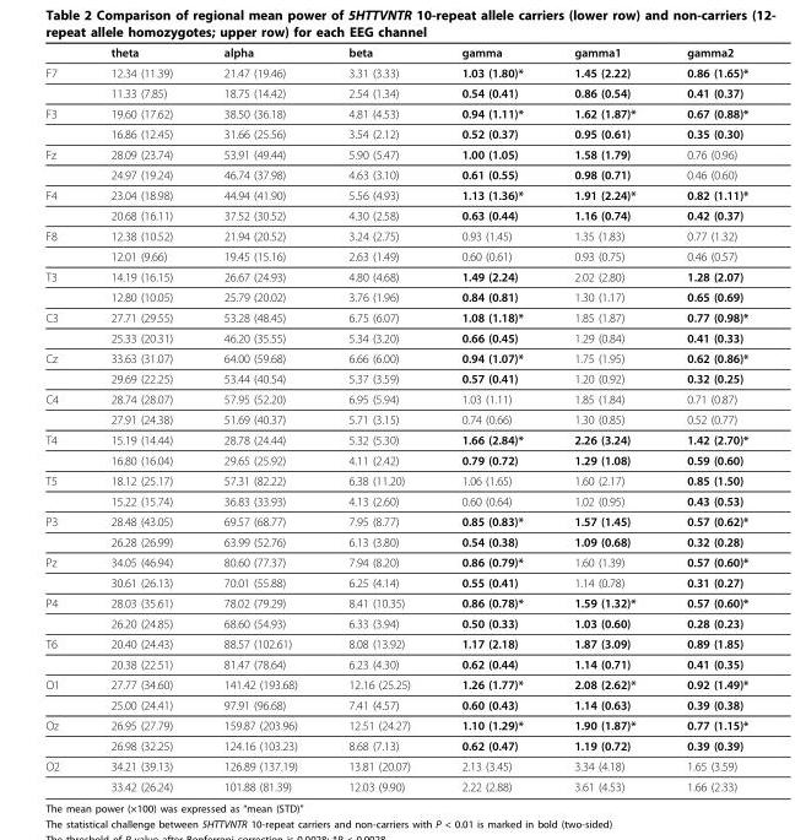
<table><thead><tr><td></td><td>theta</td><td>alpha</td><td>beta</td><td>gamma</td><td>gamma1</td><td>gamma2</td></tr></thead><tbody><tr><td rowspan="2">F7</td><td>12.34 (11.39)</td><td>21.47 (19.46)</td><td>3.31 (3.33)</td><td>1.03 (1.80)*</td><td>1.45 (2.22)</td><td>0.86 (1.65)*</td></tr><tr><td>11.33 (7.85)</td><td>18.75 (14.42)</td><td>2.54 (1.34)</td><td>0.54 (0.41)</td><td>0.86 (0.54)</td><td>0.41 (0.37)</td></tr><tr><td rowspan="2">F3</td><td>19.60 (17.62)</td><td>38.50 (36.18)</td><td>4.81 (4.53)</td><td>0.94 (1.11)*</td><td>1.62 (1.87)*</td><td>0.67 (0.88)*</td></tr><tr><td>16.86 (12.45)</td><td>31.66 (25.56)</td><td>3.54 (2.12)</td><td>0.52 (0.37)</td><td>0.95 (0.61)</td><td>0.35 (0.30)</td></tr><tr><td rowspan="2">Fz</td><td>28.09 (23.74)</td><td>53.91 (49.44)</td><td>5.90 (5.47)</td><td>1.00 (1.05)</td><td>1.58 (1.79)</td><td>0.76 (0.96)</td></tr><tr><td>24.97 (19.24)</td><td>46.74 (37.98)</td><td>4.63 (3.10)</td><td>0.61 (0.55)</td><td>0.98 (0.71)</td><td>0.46 (0.60)</td></tr><tr><td rowspan="2">F4</td><td>23.04 (18.98)</td><td>44.94 (41.90)</td><td>5.56 (4.93)</td><td>1.13 (1.36)*</td><td>1.91 (2.24)*</td><td>0.82 (1.11)*</td></tr><tr><td>20.68 (16.11)</td><td>37.52 (30.52)</td><td>4.30 (2.58)</td><td>0.63 (0.44)</td><td>1.16 (0.74)</td><td>0.42 (0.37)</td></tr><tr><td rowspan="2">F8</td><td>12.38 (10.52)</td><td>21.94 (20.52)</td><td>3.24 (2.75)</td><td>0.93 (1.45)</td><td>1.35 (1.83)</td><td>0.77 (1.32)</td></tr><tr><td>12.01 (9.66)</td><td>19.45 (15.16)</td><td>2.63 (1.49)</td><td>0.60 (0.61)</td><td>0.93 (0.75)</td><td>0.46 (0.57)</td></tr><tr><td rowspan="2">T3</td><td>14.19 (16.15)</td><td>26.67 (24.93)</td><td>4.80 (4.68)</td><td>1.49 (2.24)</td><td>2.02 (2.80)</td><td>1.28 (2.07)</td></tr><tr><td>12.80 (10.05)</td><td>25.79 (20.02)</td><td>3.76 (1.96)</td><td>0.84 (0.81)</td><td>1.30 (1.17)</td><td>0.65 (0.69)</td></tr><tr><td rowspan="2">C3</td><td>27.71 (29.55)</td><td>53.28 (48.45)</td><td>6.75 (6.07)</td><td>1.08 (1.18)*</td><td>1.85 (1.87)</td><td>0.77 (0.98)*</td></tr><tr><td>25.33 (20.31)</td><td>46.20 (35.55)</td><td>5.34 (3.20)</td><td>0.66 (0.45)</td><td>1.29 (0.84)</td><td>0.41 (0.33)</td></tr><tr><td rowspan="2">Cz</td><td>33.63 (31.07)</td><td>64.00 (59.68)</td><td>6.66 (6.00)</td><td>0.94 (1.07)*</td><td>1.75 (1.95)</td><td>0.62 (0.86)*</td></tr><tr><td>29.69 (22.25)</td><td>53.44 (40.54)</td><td>5.37 (3.59)</td><td>0.57 (0.41)</td><td>1.20 (0.92)</td><td>0.32 (0.25)</td></tr><tr><td rowspan="2">C4</td><td>28.74 (28.07)</td><td>57.95 (52.20)</td><td>6.95 (5.94)</td><td>1.03 (1.11)</td><td>1.85 (1.84)</td><td>0.71 (0.87)</td></tr><tr><td>27.91 (24.38)</td><td>51.69 (40.37)</td><td>5.71 (3.15)</td><td>0.74 (0.66)</td><td>1.30 (0.85)</td><td>0.52 (0.77)</td></tr><tr><td rowspan="2">T4</td><td>15.19 (14.44)</td><td>28.78 (24.44)</td><td>5.32 (5.30)</td><td>1.66 (2.84)*</td><td>2.26 (3.24)</td><td>1.42 (2.70)*</td></tr><tr><td>16.80 (16.04)</td><td>29.65 (25.92)</td><td>4.11 (2.42)</td><td>0.79 (0.72)</td><td>1.29 (1.08)</td><td>0.59 (0.60)</td></tr><tr><td rowspan="2">T5</td><td>18.12 (25.17)</td><td>57.31 (82.22)</td><td>6.38 (11.20)</td><td>1.06 (1.65)</td><td>1.60 (2.17)</td><td>0.85 (1.50)</td></tr><tr><td>15.22 (15.74)</td><td>36.83 (33.93)</td><td>4.13 (2.60)</td><td>0.60 (0.64)</td><td>1.02 (0.95)</td><td>0.43 (0.53)</td></tr><tr><td rowspan="2">P3</td><td>28.48 (43.05)</td><td>69.57 (68.77)</td><td>7.95 (8.77)</td><td>0.85 (0.83)*</td><td>1.57 (1.45)</td><td>0.57 (0.62)*</td></tr><tr><td>26.28 (26.99)</td><td>63.99 (52.76)</td><td>6.13 (3.80)</td><td>0.54 (0.38)</td><td>1.09 (0.68)</td><td>0.32 (0.28)</td></tr><tr><td rowspan="2">Pz</td><td>34.05 (46.94)</td><td>80.60 (77.37)</td><td>7.94 (8.20)</td><td>0.86 (0.79)*</td><td>1.60 (1.39)</td><td>0.57 (0.60)*</td></tr><tr><td>30.61 (26.13)</td><td>70.01 (55.88)</td><td>6.25 (4.14)</td><td>0.55 (0.41)</td><td>1.14 (0.78)</td><td>0.31 (0.27)</td></tr><tr><td rowspan="2">P4</td><td>28.03 (35.61)</td><td>78.02 (79.29)</td><td>8.41 (10.35)</td><td>0.86 (0.78)*</td><td>1.59 (1.32)*</td><td>0.57 (0.60)*</td></tr><tr><td>26.20 (24.85)</td><td>68.60 (54.93)</td><td>6.33 (3.94)</td><td>0.50 (0.33)</td><td>1.03 (0.60)</td><td>0.28 (0.23)</td></tr><tr><td rowspan="2">T6</td><td>20.40 (24.43)</td><td>88.57 (102.61)</td><td>8.08 (13.92)</td><td>1.17 (2.18)</td><td>1.87 (3.09)</td><td>0.89 (1.85)</td></tr><tr><td>20.38 (22.51)</td><td>81.47 (78.64)</td><td>6.23 (4.30)</td><td>0.62 (0.44)</td><td>1.14 (0.71)</td><td>0.41 (0.35)</td></tr><tr><td rowspan="2">O1</td><td>27.77 (34.60)</td><td>141.42 (193.68)</td><td>12.16 (25.25)</td><td>1.26 (1.77)*</td><td>2.08 (2.62)*</td><td>0.92 (1.49)*</td></tr><tr><td>25.00 (24.41)</td><td>97.91 (96.68)</td><td>7.41 (4.57)</td><td>0.60 (0.43)</td><td>1.14 (0.63)</td><td>0.39 (0.38)</td></tr><tr><td rowspan="2">Oz</td><td>26.95 (27.79)</td><td>159.87 (203.96)</td><td>12.51 (24.27)</td><td>1.10 (1.29)*</td><td>1.90 (1.87)*</td><td>0.77 (1.15)*</td></tr><tr><td>26.98 (32.25)</td><td>124.16 (103.23)</td><td>8.68 (7.13)</td><td>0.62 (0.47)</td><td>1.19 (0.72)</td><td>0.39 (0.39)</td></tr><tr><td rowspan="2">O2</td><td>34.21 (39.13)</td><td>126.89 (137.19)</td><td>13.81 (20.07)</td><td>2.13 (3.45)</td><td>3.34 (4.18)</td><td>1.65 (3.59)</td></tr><tr><td>33.42 (26.24)</td><td>101.88 (81.39)</td><td>12.03 (9.90)</td><td>2.22 (2.88)</td><td>3.61 (4.53)</td><td>1.66 (2.33)</td></tr></tbody></table>